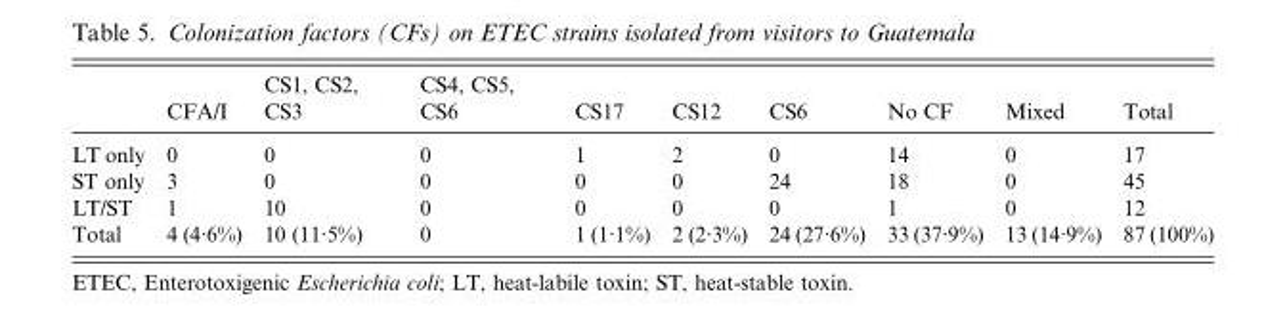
<table><thead><tr><td></td><td>CFA/I</td><td>CS1, CS2, CS3</td><td>CS4, CS5, CS6</td><td>CS17</td><td>CS12</td><td>CS6</td><td>No CF</td><td>Mixed</td><td>Total</td></tr></thead><tbody><tr><td>LT only</td><td>0</td><td>0</td><td>0</td><td>1</td><td>2</td><td>0</td><td>14</td><td>0</td><td>17</td></tr><tr><td>ST only</td><td>3</td><td>0</td><td>0</td><td>0</td><td>0</td><td>24</td><td>18</td><td>0</td><td>45</td></tr><tr><td>LT/ST</td><td>1</td><td>10</td><td>0</td><td>0</td><td>0</td><td>0</td><td>1</td><td>0</td><td>12</td></tr><tr><td>Total</td><td>4 (4·6%)</td><td>10 (11·5%)</td><td>0</td><td>1 (1·1%)</td><td>2 (2·3%)</td><td>24 (27·6%)</td><td>33 (37·9%)</td><td>13 (14·9%)</td><td>87 (100%)</td></tr></tbody></table>